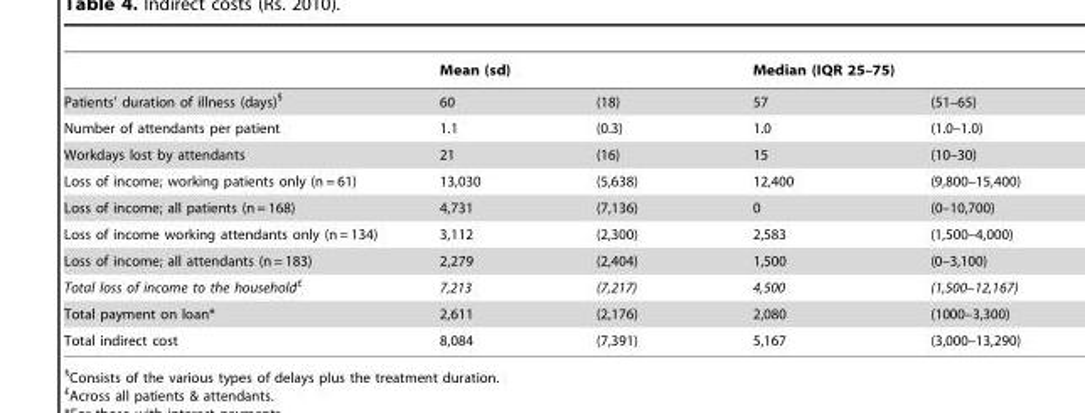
<table><thead><tr><td rowspan="2">Patients’ duration of illness (days)§</td><td colspan="2">Mean (sd)</td><td colspan="2">Median (IQR 25–75)</td></tr><tr><td>60</td><td>(18)</td><td>57</td><td>(51–65)</td></tr></thead><tbody><tr><td>Number of attendants per patient</td><td>1.1</td><td>(0.3)</td><td>1.0</td><td>(1.0–1.0)</td></tr><tr><td>Workdays lost by attendants</td><td>21</td><td>(16)</td><td>15</td><td>(10–30)</td></tr><tr><td>Loss of income; working patients only (n = 61)</td><td>13,030</td><td>(5,638)</td><td>12,400</td><td>(9,800–15,400)</td></tr><tr><td>Loss of income; all patients (n = 168)</td><td>4,731</td><td>(7,136)</td><td>0</td><td>(0–10,700)</td></tr><tr><td>Loss of income working attendants only (n = 134)</td><td>3,112</td><td>(2,300)</td><td>2,583</td><td>(1,500–4,000)</td></tr><tr><td>Loss of income; all attendants (n = 183)</td><td>2,279</td><td>(2,404)</td><td>1,500</td><td>(0–3,100)</td></tr><tr><td>Total loss of income to the household£</td><td>7,213</td><td>(7,217)</td><td>4,500</td><td>(1,500–12,167)</td></tr><tr><td>Total payment on loan*</td><td>2,611</td><td>(2,176)</td><td>2,080</td><td>(1000–3,300)</td></tr><tr><td>Total indirect cost</td><td>8,084</td><td>(7,391)</td><td>5,167</td><td>(3,000–13,290)</td></tr></tbody></table>